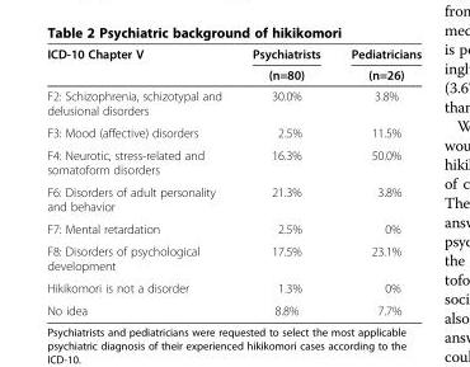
<table><thead><tr><td rowspan="2">ICD-10 Chapter V</td><td rowspan="2">Psychiatrists (n=80)</td><td rowspan="2">Pediatricians (n=26)</td></tr><tr></tr></thead><tbody><tr><td>F2: Schizophrenia, schizotypal and delusional disorders</td><td>30.0%</td><td>3.8%</td></tr><tr><td>F3: Mood (affective) disorders</td><td>2.5%</td><td>11.5%</td></tr><tr><td>F4: Neurotic, stress-related and somatoform disorders</td><td>16.3%</td><td>50.0%</td></tr><tr><td>F6: Disorders of adult personality and behavior</td><td>21.3%</td><td>3.8%</td></tr><tr><td>F7: Mental retardation</td><td>2.5%</td><td>0%</td></tr><tr><td>F8: Disorders of psychological development</td><td>17.5%</td><td>23.1%</td></tr><tr><td>Hikikomori is not a disorder</td><td>1.3%</td><td>0%</td></tr><tr><td>No idea</td><td>8.8%</td><td>7.7%</td></tr></tbody></table>